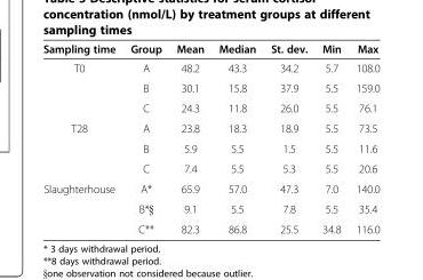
<table><thead><tr><td>Sampling time</td><td>Group</td><td>Mean</td><td>Median</td><td>St. dev.</td><td>Min</td><td>Max</td></tr></thead><tbody><tr><td rowspan="3">T0</td><td>A</td><td>48.2</td><td>43.3</td><td>34.2</td><td>5.7</td><td>108.0</td></tr><tr><td>B</td><td>30.1</td><td>15.8</td><td>37.9</td><td>5.5</td><td>159.0</td></tr><tr><td>C</td><td>24.3</td><td>11.8</td><td>26.0</td><td>5.5</td><td>76.1</td></tr><tr><td rowspan="3">T28</td><td>A</td><td>23.8</td><td>18.3</td><td>18.9</td><td>5.5</td><td>73.5</td></tr><tr><td>B</td><td>5.9</td><td>5.5</td><td>1.5</td><td>5.5</td><td>11.6</td></tr><tr><td>C</td><td>7.4</td><td>5.5</td><td>5.3</td><td>5.5</td><td>20.6</td></tr><tr><td rowspan="3">Slaughterhouse</td><td>A*</td><td>65.9</td><td>57.0</td><td>47.3</td><td>7.0</td><td>140.0</td></tr><tr><td>B*§</td><td>9.1</td><td>5.5</td><td>7.8</td><td>5.5</td><td>35.4</td></tr><tr><td>C**</td><td>82.3</td><td>86.8</td><td>25.5</td><td>34.8</td><td>116.0</td></tr></tbody></table>